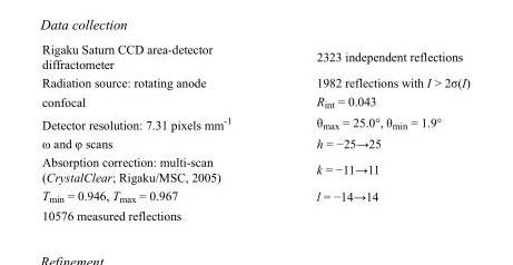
<table><tbody><tr><td>Rigaku Saturn CCD area-detector diffractometer</td><td>2323 independent reflections</td></tr><tr><td>Radiation source: rotating anode</td><td>1982 reflections with I &gt; 2σ(I)</td></tr><tr><td>confocal</td><td>R<sub>int</sub> = 0.043</td></tr><tr><td>Detector resolution: 7.31 pixels mm<sup>-1</sup></td><td>θ<sub>max</sub> = 25.0°, θ<sub>min</sub> = 1.9°</td></tr><tr><td>ω and φ scans</td><td>h = −25→25</td></tr><tr><td>Absorption correction: multi-scan (CrystalClear; Rigaku/MSC, 2005)</td><td>k = −11→11</td></tr><tr><td>T<sub>min</sub> = 0.946, T<sub>max</sub> = 0.967</td><td>l = −14→14</td></tr><tr><td>10576 measured reflections</td><td></td></tr></tbody></table>